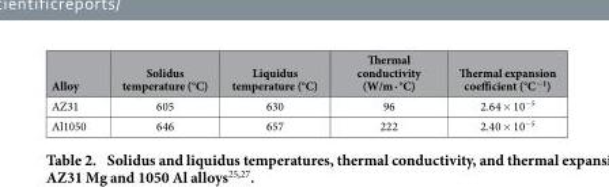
<table><thead><tr><td>Alloy</td><td>Solidus temperature (°C)</td><td>Liquidus temperature (°C)</td><td>Thermal conductivity (W/m ∙ °C)</td><td>Thermal expansion coefficient (°C<sup>−1</sup>)</td></tr></thead><tbody><tr><td>AZ31</td><td>605</td><td>630</td><td>96</td><td>2.64 × 10<sup>−5</sup></td></tr><tr><td>Al1050</td><td>646</td><td>657</td><td>222</td><td>2.40 × 10<sup>−5</sup></td></tr></tbody></table>